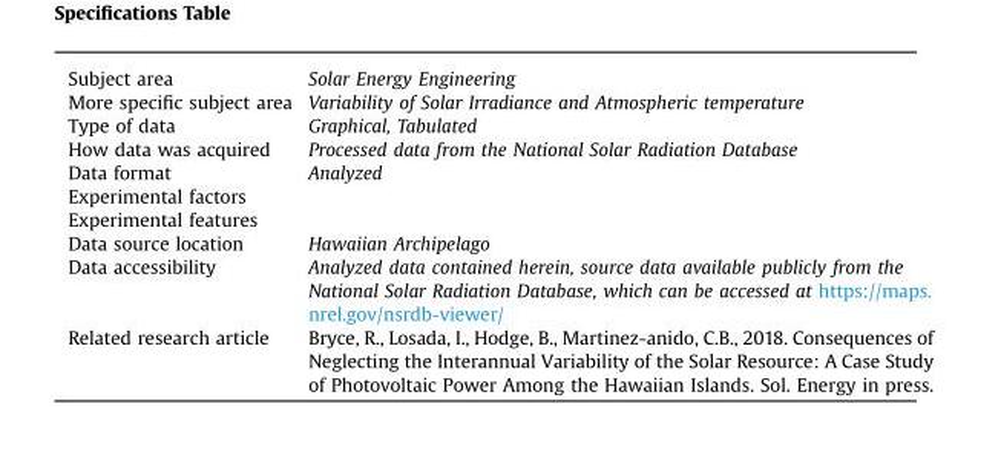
<table><tbody><tr><td>Subject area</td><td>Solar Energy Engineering</td></tr><tr><td>More specific subject area</td><td>Variability of Solar Irradiance and Atmospheric temperature</td></tr><tr><td>Type of data</td><td>Graphical, Tabulated</td></tr><tr><td>How data was acquired</td><td>Processed data from the National Solar Radiation Database</td></tr><tr><td>Data format</td><td>Analyzed</td></tr><tr><td colspan="2">Experimental factors</td></tr><tr><td colspan="2">Experimental features</td></tr><tr><td>Data source location</td><td>Hawaiian Archipelago</td></tr><tr><td>Data accessibility</td><td>Analyzed data contained herein, source data available publicly from the National Solar Radiation Database, which can be accessed at https://maps. nrel.gov/nsrdb-viewer/</td></tr><tr><td>Related research article</td><td>Bryce, R., Losada, I., Hodge, B., Martinez-anido, C.B., 2018. Consequences of Neglecting the Interannual Variability of the Solar Resource: A Case Study of Photovoltaic Power Among the Hawaiian Islands. Sol. Energy in press.</td></tr></tbody></table>